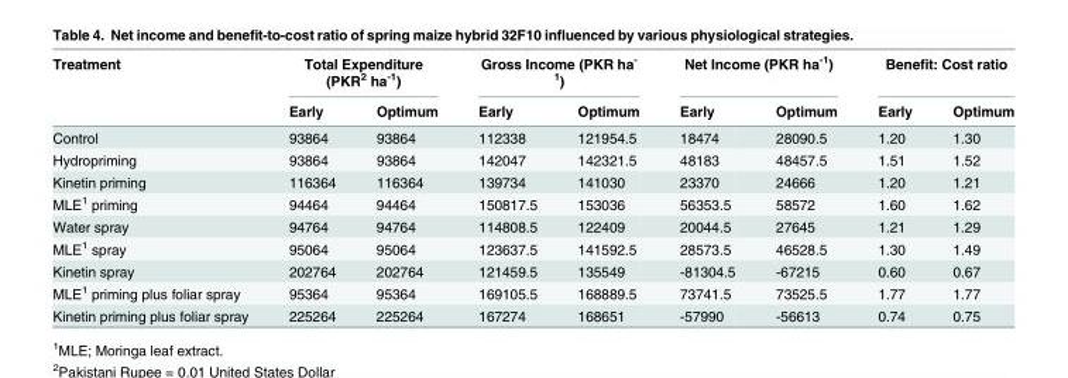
<table><thead><tr><td rowspan="2">Treatment</td><td colspan="2">Total Expenditure (PKR<sup>2</sup> ha<sup>-1</sup>)</td><td colspan="2">Gross Income (PKR ha<sup>- 1</sup>)</td><td colspan="2">Net Income (PKR ha<sup>-1</sup>)</td><td colspan="2">Benefit: Cost ratio</td></tr><tr><td>Early</td><td>Optimum</td><td>Early</td><td>Optimum</td><td>Early</td><td>Optimum</td><td>Early</td><td>Optimum</td></tr></thead><tbody><tr><td>Control</td><td>93864</td><td>93864</td><td>112338</td><td>121954.5</td><td>18474</td><td>28090.5</td><td>1.20</td><td>1.30</td></tr><tr><td>Hydropriming</td><td>93864</td><td>93864</td><td>142047</td><td>142321.5</td><td>48183</td><td>48457.5</td><td>1.51</td><td>1.52</td></tr><tr><td>Kinetin priming</td><td>116364</td><td>116364</td><td>139734</td><td>141030</td><td>23370</td><td>24666</td><td>1.20</td><td>1.21</td></tr><tr><td>MLE<sup>1</sup> priming</td><td>94464</td><td>94464</td><td>150817.5</td><td>153036</td><td>56353.5</td><td>58572</td><td>1.60</td><td>1.62</td></tr><tr><td>Water spray</td><td>94764</td><td>94764</td><td>114808.5</td><td>122409</td><td>20044.5</td><td>27645</td><td>1.21</td><td>1.29</td></tr><tr><td>MLE<sup>1</sup> spray</td><td>95064</td><td>95064</td><td>123637.5</td><td>141592.5</td><td>28573.5</td><td>46528.5</td><td>1.30</td><td>1.49</td></tr><tr><td>Kinetin spray</td><td>202764</td><td>202764</td><td>121459.5</td><td>135549</td><td>-81304.5</td><td>-67215</td><td>0.60</td><td>0.67</td></tr><tr><td>MLE<sup>1</sup> priming plus foliar spray</td><td>95364</td><td>95364</td><td>169105.5</td><td>168889.5</td><td>73741.5</td><td>73525.5</td><td>1.77</td><td>1.77</td></tr><tr><td>Kinetin priming plus foliar spray</td><td>225264</td><td>225264</td><td>167274</td><td>168651</td><td>-57990</td><td>-56613</td><td>0.74</td><td>0.75</td></tr></tbody></table>